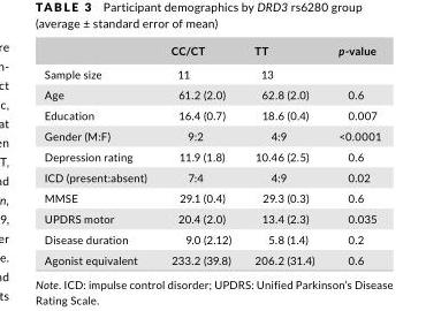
<table><thead><tr><td></td><td>CC/CT</td><td>TT</td><td>p- value</td></tr></thead><tbody><tr><td>Sample size</td><td>11</td><td>13</td><td></td></tr><tr><td>Age</td><td>61.2 (2.0)</td><td>62.8 (2.0)</td><td>0.6</td></tr><tr><td>Education</td><td>16.4 (0.7)</td><td>18.6 (0.4)</td><td>0.007</td></tr><tr><td>Gender (M:F)</td><td>9:2</td><td>4:9</td><td>&lt;0.0001</td></tr><tr><td>Depression rating</td><td>11.9 (1.8)</td><td>10.46 (2.5)</td><td>0.6</td></tr><tr><td>ICD (present:absent)</td><td>7:4</td><td>4:9</td><td>0.02</td></tr><tr><td>MMSE</td><td>29.1 (0.4)</td><td>29.3 (0.3)</td><td>0.6</td></tr><tr><td>UPDRS motor</td><td>20.4 (2.0)</td><td>13.4 (2.3)</td><td>0.035</td></tr><tr><td>Disease duration</td><td>9.0 (2.12)</td><td>5.8 (1.4)</td><td>0.2</td></tr><tr><td>Agonist equivalent</td><td>233.2 (39.8)</td><td>206.2 (31.4)</td><td>0.6</td></tr></tbody></table>